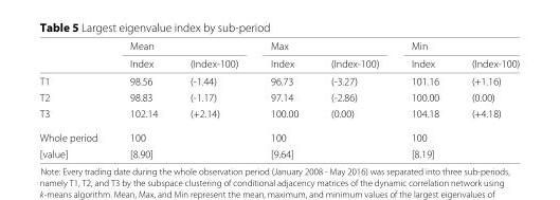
<table><thead><tr><td rowspan="2"></td><td colspan="2">Mean</td><td colspan="2">Max</td><td colspan="2">Min</td></tr><tr><td>Index</td><td>(Index-100)</td><td>Index</td><td>(Index-100)</td><td>Index</td><td>(Index-100)</td></tr></thead><tbody><tr><td>T1</td><td>98.56</td><td>(-1.44)</td><td>96.73</td><td>(-3.27)</td><td>101.16</td><td>(+1.16)</td></tr><tr><td>T2</td><td>98.83</td><td>(-1.17)</td><td>97.14</td><td>(-2.86)</td><td>100.00</td><td>(0.00)</td></tr><tr><td>T3</td><td>102.14</td><td>(+2.14)</td><td>100.00</td><td>(0.00)</td><td>104.18</td><td>(+4.18)</td></tr><tr><td>Whole period</td><td>100</td><td></td><td>100</td><td></td><td>100</td><td></td></tr><tr><td>[value]</td><td>[8.90]</td><td></td><td>[9.64]</td><td></td><td>[8.19]</td><td></td></tr></tbody></table>